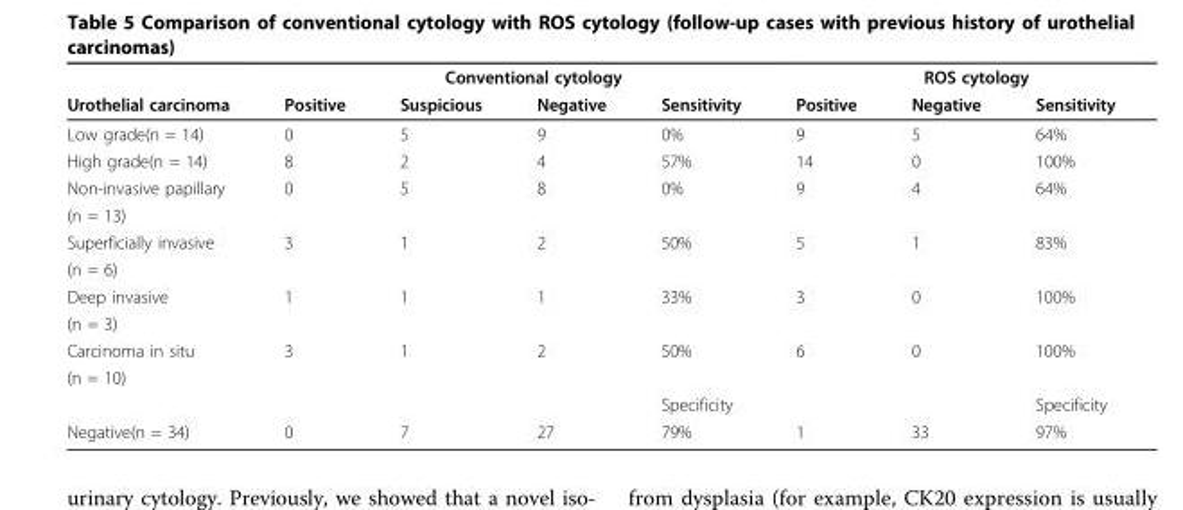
<table><thead><tr><td rowspan="2">Urothelial carcinoma</td><td colspan="4">Conventional cytology</td><td colspan="3">ROS cytology</td></tr><tr><td>Positive</td><td>Suspicious</td><td>Negative</td><td>Sensitivity</td><td>Positive</td><td>Negative</td><td>Sensitivity</td></tr></thead><tbody><tr><td>Low grade(n = 14)</td><td>0</td><td>5</td><td>9</td><td>0%</td><td>9</td><td>5</td><td>64%</td></tr><tr><td>High grade(n = 14)</td><td>8</td><td>2</td><td>4</td><td>57%</td><td>14</td><td>0</td><td>100%</td></tr><tr><td>Non-invasive papillary</td><td>0</td><td>5</td><td>8</td><td>0%</td><td>9</td><td>4</td><td>64%</td></tr><tr><td colspan="8">(n = 13)</td></tr><tr><td>Superficially invasive</td><td>3</td><td>1</td><td>2</td><td>50%</td><td>5</td><td>1</td><td>83%</td></tr><tr><td colspan="8">(n = 6)</td></tr><tr><td>Deep invasive</td><td>1</td><td>1</td><td>1</td><td>33%</td><td>3</td><td>0</td><td>100%</td></tr><tr><td colspan="8">(n = 3)</td></tr><tr><td>Carcinoma in situ</td><td>3</td><td>1</td><td>2</td><td>50%</td><td>6</td><td>0</td><td>100%</td></tr><tr><td colspan="8">(n = 10)</td></tr><tr><td></td><td></td><td></td><td></td><td>Specificity</td><td></td><td></td><td>Specificity</td></tr><tr><td>Negative(n = 34)</td><td>0</td><td>7</td><td>27</td><td>79%</td><td>1</td><td>33</td><td>97%</td></tr></tbody></table>